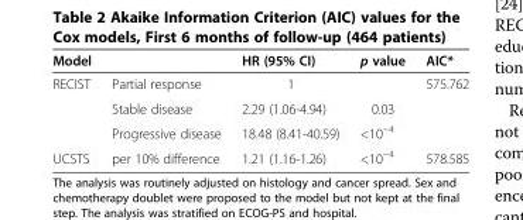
<table><thead><tr><td>Model</td><td></td><td>HR (95% CI)</td><td>p value</td><td>AIC*</td></tr></thead><tbody><tr><td rowspan="3">RECIST</td><td>Partial response</td><td>1</td><td></td><td>575.762</td></tr><tr><td>Stable disease</td><td>2.29 (1.06-4.94)</td><td>0.03</td><td></td></tr><tr><td>Progressive disease</td><td>18.48 (8.41-40.59)</td><td>&lt;10<sup>−4</sup></td><td></td></tr><tr><td>UCSTS</td><td>per 10% difference</td><td>1.21 (1.16-1.26)</td><td>&lt;10<sup>−4</sup></td><td>578.585</td></tr></tbody></table>